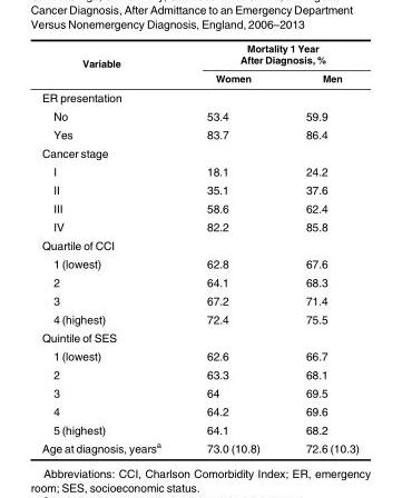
<table><thead><tr><td rowspan="2">Variable</td><td colspan="2">Mortality 1 Year After Diagnosis, %</td></tr><tr><td>Women</td><td>Men</td></tr></thead><tbody><tr><td colspan="3">ER presentation</td></tr><tr><td>No</td><td>53.4</td><td>59.9</td></tr><tr><td>Yes</td><td>83.7</td><td>86.4</td></tr><tr><td colspan="3">Cancer stage</td></tr><tr><td>I</td><td>18.1</td><td>24.2</td></tr><tr><td>II</td><td>35.1</td><td>37.6</td></tr><tr><td>III</td><td>58.6</td><td>62.4</td></tr><tr><td>IV</td><td>82.2</td><td>85.8</td></tr><tr><td colspan="3">Quartile of CCI</td></tr><tr><td>1 (lowest)</td><td>62.8</td><td>67.6</td></tr><tr><td>2</td><td>64.1</td><td>68.3</td></tr><tr><td>3</td><td>67.2</td><td>71.4</td></tr><tr><td>4 (highest)</td><td>72.4</td><td>75.5</td></tr><tr><td colspan="3">Quintile of SES</td></tr><tr><td>1 (lowest)</td><td>62.6</td><td>66.7</td></tr><tr><td>2</td><td>63.3</td><td>68.1</td></tr><tr><td>3</td><td>64</td><td>69.5</td></tr><tr><td>4</td><td>64.2</td><td>69.6</td></tr><tr><td>5 (highest)</td><td>64.1</td><td>68.2</td></tr><tr><td>Age at diagnosis, years<sup>a</sup></td><td>73.0 (10.8)</td><td>72.6 (10.3)</td></tr></tbody></table>